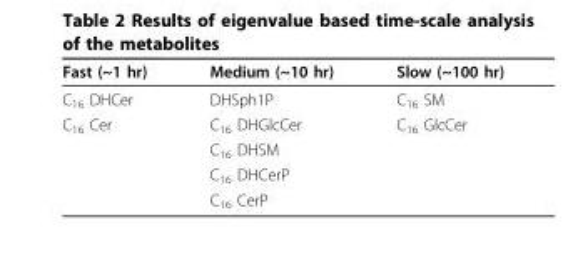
<table><thead><tr><td>Fast (~1 hr)</td><td>Medium (~10 hr)</td><td>Slow (~100 hr)</td></tr></thead><tbody><tr><td>C<sub>16</sub> DHCer</td><td>DHSph1P</td><td>C<sub>16</sub> SM</td></tr><tr><td rowspan="4">C<sub>16</sub> Cer</td><td>C<sub>16</sub> DHGlcCer</td><td>C<sub>16</sub> GlcCer</td></tr><tr><td>C<sub>16</sub> DHSM</td><td></td></tr><tr><td>C<sub>16</sub> DHCerP</td><td></td></tr><tr><td>C<sub>16</sub> CerP</td><td></td></tr></tbody></table>